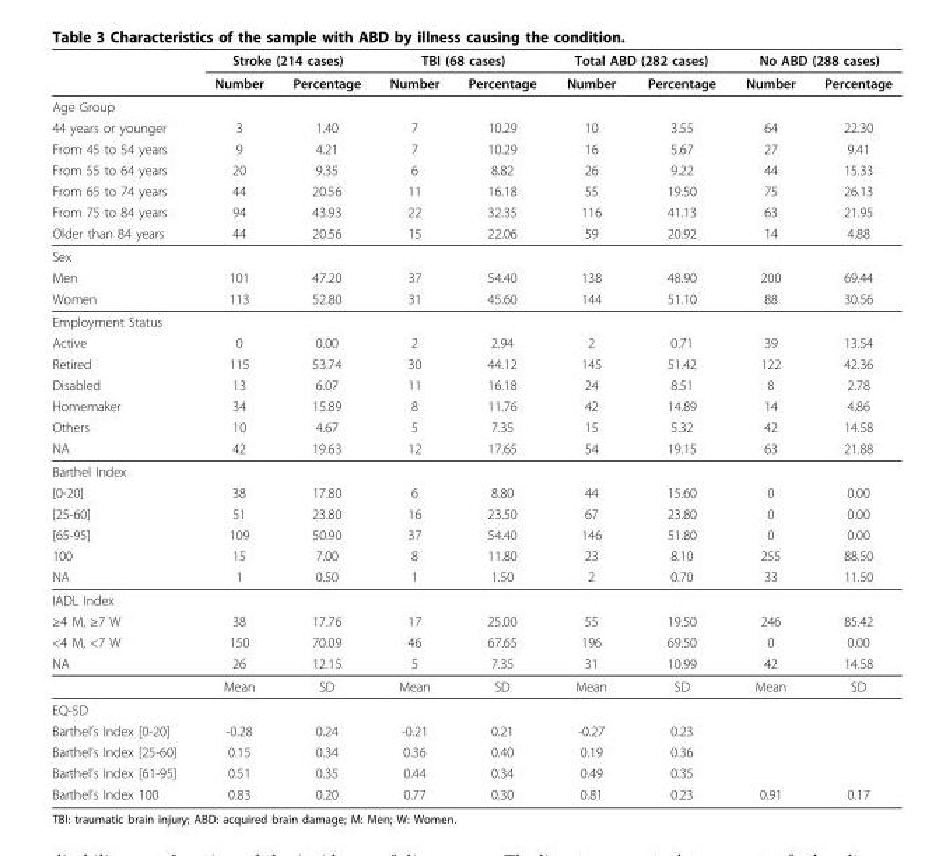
<table><thead><tr><td rowspan="2"></td><td colspan="2">Stroke (214 cases)</td><td colspan="2">TBI (68 cases)</td><td colspan="2">Total ABD (282 cases)</td><td colspan="2">No ABD (288 cases)</td></tr><tr><td>Number</td><td>Percentage</td><td>Number</td><td>Percentage</td><td>Number</td><td>Percentage</td><td>Number</td><td>Percentage</td></tr></thead><tbody><tr><td colspan="9">Age Group</td></tr><tr><td>44 years or younger</td><td>3</td><td>1.40</td><td>7</td><td>10.29</td><td>10</td><td>3.55</td><td>64</td><td>22.30</td></tr><tr><td>From 45 to 54 years</td><td>9</td><td>4.21</td><td>7</td><td>10.29</td><td>16</td><td>5.67</td><td>27</td><td>9.41</td></tr><tr><td>From 55 to 64 years</td><td>20</td><td>9.35</td><td>6</td><td>8.82</td><td>26</td><td>9.22</td><td>44</td><td>15.33</td></tr><tr><td>From 65 to 74 years</td><td>44</td><td>20.56</td><td>11</td><td>16.18</td><td>55</td><td>19.50</td><td>75</td><td>26.13</td></tr><tr><td>From 75 to 84 years</td><td>94</td><td>43.93</td><td>22</td><td>32.35</td><td>116</td><td>41.13</td><td>63</td><td>21.95</td></tr><tr><td>Older than 84 years</td><td>44</td><td>20.56</td><td>15</td><td>22.06</td><td>59</td><td>20.92</td><td>14</td><td>4.88</td></tr><tr><td colspan="9">Sex</td></tr><tr><td>Men</td><td>101</td><td>47.20</td><td>37</td><td>54.40</td><td>138</td><td>48.90</td><td>200</td><td>69.44</td></tr><tr><td>Women</td><td>113</td><td>52.80</td><td>31</td><td>45.60</td><td>144</td><td>51.10</td><td>88</td><td>30.56</td></tr><tr><td colspan="9">Employment Status</td></tr><tr><td>Active</td><td>0</td><td>0.00</td><td>2</td><td>2.94</td><td>2</td><td>0.71</td><td>39</td><td>13.54</td></tr><tr><td>Retired</td><td>115</td><td>53.74</td><td>30</td><td>44.12</td><td>145</td><td>51.42</td><td>122</td><td>42.36</td></tr><tr><td>Disabled</td><td>13</td><td>6.07</td><td>11</td><td>16.18</td><td>24</td><td>8.51</td><td>8</td><td>2.78</td></tr><tr><td>Homemaker</td><td>34</td><td>15.89</td><td>8</td><td>11.76</td><td>42</td><td>14.89</td><td>14</td><td>4.86</td></tr><tr><td>Others</td><td>10</td><td>4.67</td><td>5</td><td>7.35</td><td>15</td><td>5.32</td><td>42</td><td>14.58</td></tr><tr><td>NA</td><td>42</td><td>19.63</td><td>12</td><td>17.65</td><td>54</td><td>19.15</td><td>63</td><td>21.88</td></tr><tr><td colspan="9">Barthel Index</td></tr><tr><td>[0-20]</td><td>38</td><td>17.80</td><td>6</td><td>8.80</td><td>44</td><td>15.60</td><td>0</td><td>0.00</td></tr><tr><td>[25-60]</td><td>51</td><td>23.80</td><td>16</td><td>23.50</td><td>67</td><td>23.80</td><td>0</td><td>0.00</td></tr><tr><td>[65-95]</td><td>109</td><td>50.90</td><td>37</td><td>54.40</td><td>146</td><td>51.80</td><td>0</td><td>0.00</td></tr><tr><td>100</td><td>15</td><td>7.00</td><td>8</td><td>11.80</td><td>23</td><td>8.10</td><td>255</td><td>88.50</td></tr><tr><td>NA</td><td>1</td><td>0.50</td><td>1</td><td>1.50</td><td>2</td><td>0.70</td><td>33</td><td>11.50</td></tr><tr><td colspan="9">IADL Index</td></tr><tr><td>≥4 M, ≥7 W</td><td>38</td><td>17.76</td><td>17</td><td>25.00</td><td>55</td><td>19.50</td><td>246</td><td>85.42</td></tr><tr><td>&lt;4 M, &lt;7 W</td><td>150</td><td>70.09</td><td>46</td><td>67.65</td><td>196</td><td>69.50</td><td>0</td><td>0.00</td></tr><tr><td rowspan="2">NA</td><td>26</td><td>12.15</td><td>5</td><td>7.35</td><td>31</td><td>10.99</td><td>42</td><td>14.58</td></tr><tr><td>Mean</td><td>SD</td><td>Mean</td><td>SD</td><td>Mean</td><td>SD</td><td>Mean</td><td>SD</td></tr><tr><td colspan="9">EQ-5D</td></tr><tr><td>Barthel’s Index [0-20]</td><td>-0.28</td><td>0.24</td><td>-0.21</td><td>0.21</td><td>-0.27</td><td>0.23</td><td></td><td></td></tr><tr><td>Barthel’s Index [25-60]</td><td>0.15</td><td>0.34</td><td>0.36</td><td>0.40</td><td>0.19</td><td>0.36</td><td></td><td></td></tr><tr><td>Barthel’s Index [61-95]</td><td>0.51</td><td>0.35</td><td>0.44</td><td>0.34</td><td>0.49</td><td>0.35</td><td></td><td></td></tr><tr><td>Barthel’s Index 100</td><td>0.83</td><td>0.20</td><td>0.77</td><td>0.30</td><td>0.81</td><td>0.23</td><td>0.91</td><td>0.17</td></tr></tbody></table>